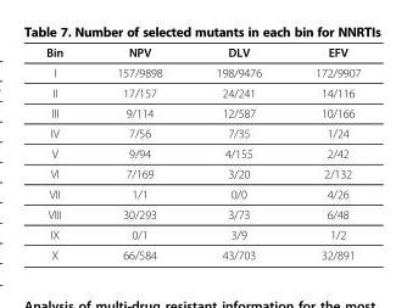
<table><thead><tr><td>Bin</td><td>NPV</td><td>DLV</td><td>EFV</td></tr></thead><tbody><tr><td>I</td><td>157/9898</td><td>198/9476</td><td>172/9907</td></tr><tr><td>II</td><td>17/157</td><td>24/241</td><td>14/116</td></tr><tr><td>III</td><td>9/114</td><td>12/587</td><td>10/166</td></tr><tr><td>IV</td><td>7/56</td><td>7/35</td><td>1/24</td></tr><tr><td>V</td><td>9/94</td><td>4/155</td><td>2/42</td></tr><tr><td>VI</td><td>7/169</td><td>3/20</td><td>2/132</td></tr><tr><td>VII</td><td>1/1</td><td>0/0</td><td>4/26</td></tr><tr><td>VIII</td><td>30/293</td><td>3/73</td><td>6/48</td></tr><tr><td>IX</td><td>0/1</td><td>3/9</td><td>1/2</td></tr><tr><td>X</td><td>66/584</td><td>43/703</td><td>32/891</td></tr></tbody></table>